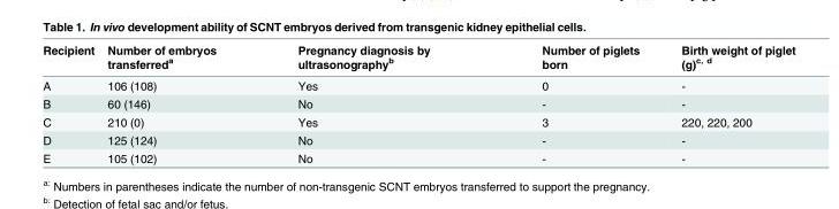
<table><thead><tr><td>Recipient</td><td>Number of embryos transferred<sup>a</sup></td><td>Pregnancy diagnosis by ultrasonography<sup>b</sup></td><td>Number of piglets born</td><td>Birth weight of piglet (g)<sup>c, d</sup></td></tr></thead><tbody><tr><td>A</td><td>106 (108)</td><td>Yes</td><td>0</td><td>-</td></tr><tr><td>B</td><td>60 (146)</td><td>No</td><td>-</td><td>-</td></tr><tr><td>C</td><td>210 (0)</td><td>Yes</td><td>3</td><td>220, 220, 200</td></tr><tr><td>D</td><td>125 (124)</td><td>No</td><td>-</td><td>-</td></tr><tr><td>E</td><td>105 (102)</td><td>No</td><td>-</td><td>-</td></tr></tbody></table>